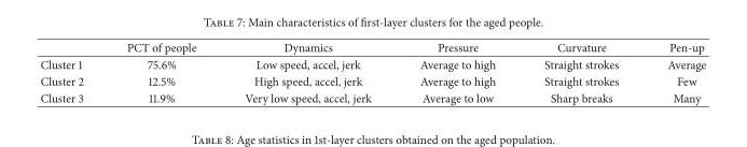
<table><thead><tr><td></td><td>PCT of people</td><td>Dynamics</td><td>Pressure</td><td>Curvature</td><td>Pen-up</td></tr></thead><tbody><tr><td>Cluster 1</td><td>75.6%</td><td>Low speed, accel, jerk</td><td>Average to high</td><td>Straight strokes</td><td>Average</td></tr><tr><td>Cluster 2</td><td>12.5%</td><td>High speed, accel, jerk</td><td>Average to high</td><td>Straight strokes</td><td>Few</td></tr><tr><td>Cluster 3</td><td>11.9%</td><td>Very low speed, accel, jerk</td><td>Average to low</td><td>Sharp breaks</td><td>Many</td></tr></tbody></table>